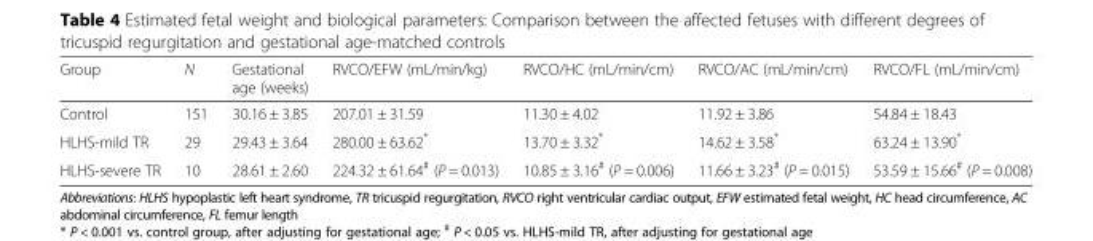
<table><thead><tr><td>Group</td><td>N</td><td>Gestational age (weeks)</td><td>RVCO/EFW (mL/min/kg)</td><td>RVCO/HC (mL/min/cm)</td><td>RVCO/AC (mL/min/cm)</td><td>RVCO/FL (mL/min/cm)</td></tr></thead><tbody><tr><td>Control</td><td>151</td><td>30.16 ± 3.85</td><td>207.01 ± 31.59</td><td>11.30 ± 4.02</td><td>11.92 ± 3.86</td><td>54.84 ± 18.43</td></tr><tr><td>HLHS-mild TR</td><td>29</td><td>29.43 ± 3.64</td><td>280.00 ± 63.62*</td><td>13.70 ± 3.32*</td><td>14.62 ± 3.58*</td><td>63.24 ± 13.90*</td></tr><tr><td>HLHS-severe TR</td><td>10</td><td>28.61 ± 2.60</td><td>224.32 ± 61.64<sup>#</sup> (P = 0.013)</td><td>10.85 ± 3.16<sup>#</sup> (P = 0.006)</td><td>11.66 ± 3.23<sup>#</sup> (P = 0.015)</td><td>53.59 ± 15.66<sup>#</sup> (P = 0.008)</td></tr></tbody></table>